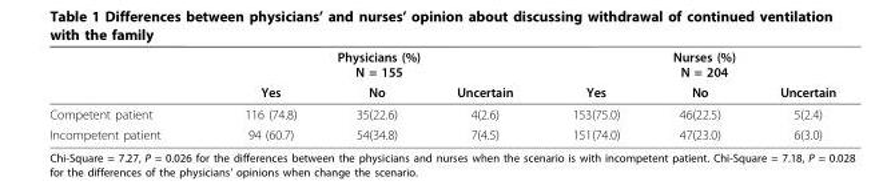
<table><thead><tr><td rowspan="2"></td><td colspan="3">Physicians (%) N = 155</td><td colspan="3">Nurses (%) N = 204</td></tr><tr><td>Yes</td><td>No</td><td>Uncertain</td><td>Yes</td><td>No</td><td>Uncertain</td></tr></thead><tbody><tr><td>Competent patient</td><td>116 (74.8)</td><td>35(22.6)</td><td>4(2.6)</td><td>153(75.0)</td><td>46(22.5)</td><td>5(2.4)</td></tr><tr><td>Incompetent patient</td><td>94 (60.7)</td><td>54(34.8)</td><td>7(4.5)</td><td>151(74.0)</td><td>47(23.0)</td><td>6(3.0)</td></tr></tbody></table>